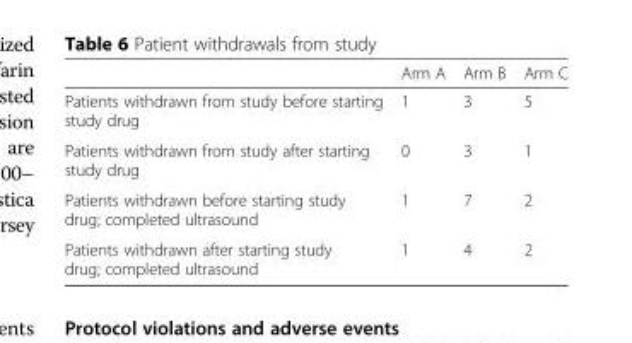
<table><thead><tr><td></td><td>Arm A</td><td>Arm B</td><td>Arm C</td></tr></thead><tbody><tr><td>Patients withdrawn from study before starting study drug</td><td>1</td><td>3</td><td>5</td></tr><tr><td>Patients withdrawn from study after starting study drug</td><td>0</td><td>3</td><td>1</td></tr><tr><td>Patients withdrawn before starting study drug; completed ultrasound</td><td>1</td><td>7</td><td>2</td></tr><tr><td>Patients withdrawn after starting study drug; completed ultrasound</td><td>1</td><td>4</td><td>2</td></tr></tbody></table>